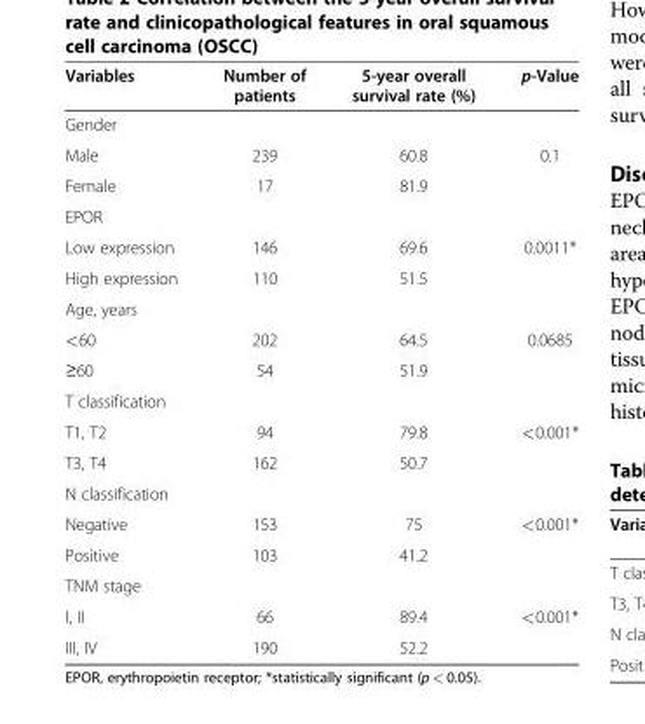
<table><thead><tr><td>Variables</td><td>Number of patients</td><td>5-year overall survival rate (%)</td><td>p-Value</td></tr></thead><tbody><tr><td colspan="4">Gender</td></tr><tr><td>Male</td><td>239</td><td>60.8</td><td>0.1</td></tr><tr><td>Female</td><td>17</td><td>81.9</td><td></td></tr><tr><td colspan="4">EPOR</td></tr><tr><td>Low expression</td><td>146</td><td>69.6</td><td>0.0011*</td></tr><tr><td>High expression</td><td>110</td><td>51.5</td><td></td></tr><tr><td colspan="4">Age, years</td></tr><tr><td>&lt;60</td><td>202</td><td>64.5</td><td>0.0685</td></tr><tr><td>≥60</td><td>54</td><td>51.9</td><td></td></tr><tr><td colspan="4">T classification</td></tr><tr><td>T1, T2</td><td>94</td><td>79.8</td><td>&lt;0.001*</td></tr><tr><td>T3, T4</td><td>162</td><td>50.7</td><td></td></tr><tr><td colspan="4">N classification</td></tr><tr><td>Negative</td><td>153</td><td>75</td><td>&lt;0.001*</td></tr><tr><td>Positive</td><td>103</td><td>41.2</td><td></td></tr><tr><td colspan="4">TNM stage</td></tr><tr><td>I, II</td><td>66</td><td>89.4</td><td>&lt;0.001*</td></tr><tr><td>III, IV</td><td>190</td><td>52.2</td><td></td></tr></tbody></table>